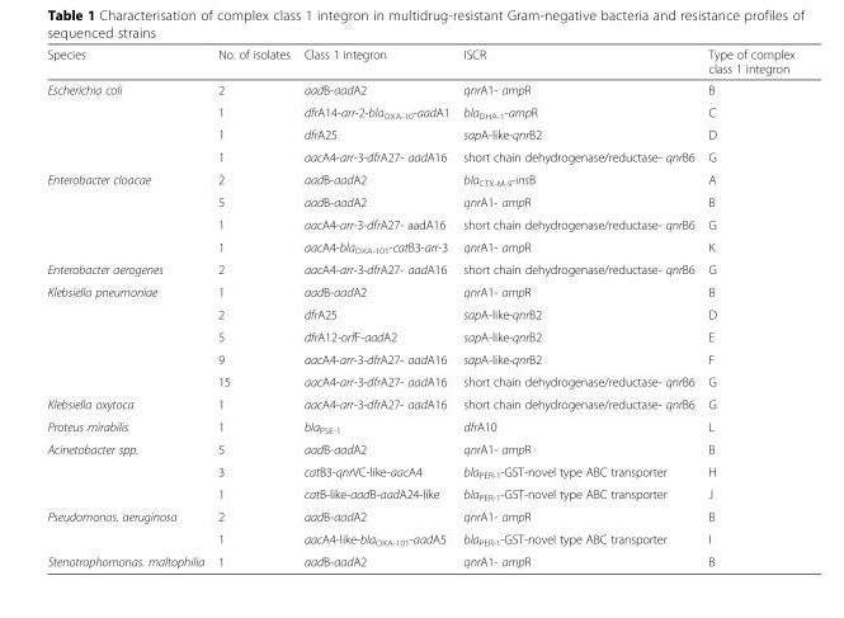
<table><thead><tr><td>Species</td><td>No. of isolates</td><td>Class 1 integron</td><td>ISCR</td><td>Type of complex class 1 integron</td></tr></thead><tbody><tr><td rowspan="4">Escherichia coli</td><td>2</td><td>aadB-aadA2</td><td>qnrA1- ampR</td><td>B</td></tr><tr><td>1</td><td>dfrA14-arr-2-bla<sub>OXA-10</sub>-aadA1</td><td>bla<sub>DHA-1</sub>-ampR</td><td>C</td></tr><tr><td>1</td><td>dfrA25</td><td>sapA-like-qnrB2</td><td>D</td></tr><tr><td>1</td><td>aacA4-arr-3-dfrA27- aadA16</td><td>short chain dehydrogenase/reductase- qnrB6</td><td>G</td></tr><tr><td rowspan="4">Enterobacter cloacae</td><td>2</td><td>aadB-aadA2</td><td>bla<sub>CTX-M-9</sub>-insB</td><td>A</td></tr><tr><td>5</td><td>aadB-aadA2</td><td>qnrA1- ampR</td><td>B</td></tr><tr><td>1</td><td>aacA4-arr-3-dfrA27- aadA16</td><td>short chain dehydrogenase/reductase- qnrB6</td><td>G</td></tr><tr><td>1</td><td>aacA4-bla<sub>OXA-101</sub>-catB3-arr-3</td><td>qnrA1- ampR</td><td>K</td></tr><tr><td>Enterobacter aerogenes</td><td>2</td><td>aacA4-arr-3-dfrA27- aadA16</td><td>short chain dehydrogenase/reductase- qnrB6</td><td>G</td></tr><tr><td rowspan="5">Klebsiella pneumoniae</td><td>1</td><td>aadB-aadA2</td><td>qnrA1- ampR</td><td>B</td></tr><tr><td>2</td><td>dfrA25</td><td>sapA-like-qnrB2</td><td>D</td></tr><tr><td>5</td><td>dfrA12-orfF-aadA2</td><td>sapA-like-qnrB2</td><td>E</td></tr><tr><td>9</td><td>aacA4-arr-3-dfrA27- aadA16</td><td>sapA-like-qnrB2</td><td>F</td></tr><tr><td>15</td><td>aacA4-arr-3-dfrA27- aadA16</td><td>short chain dehydrogenase/reductase- qnrB6</td><td>G</td></tr><tr><td>Klebsiella oxytoca</td><td>1</td><td>aacA4-arr-3-dfrA27- aadA16</td><td>short chain dehydrogenase/reductase- qnrB6</td><td>G</td></tr><tr><td>Proteus mirabilis</td><td>1</td><td>bla<sub>PSE-1</sub></td><td>dfrA10</td><td>L</td></tr><tr><td rowspan="3">Acinetobacter spp.</td><td>5</td><td>aadB-aadA2</td><td>qnrA1- ampR</td><td>B</td></tr><tr><td>3</td><td>catB3-qnrVC-like-aacA4</td><td>bla<sub>PER-1</sub>-GST-novel type ABC transporter</td><td>H</td></tr><tr><td>1</td><td>catB-like-aadB-aadA24-like</td><td>bla<sub>PER-1</sub>-GST-novel type ABC transporter</td><td>J</td></tr><tr><td rowspan="2">Pseudomonas. aeruginosa</td><td>2</td><td>aadB-aadA2</td><td>qnrA1- ampR</td><td>B</td></tr><tr><td>1</td><td>aacA4-like-bla<sub>OXA-101</sub>-aadA5</td><td>bla<sub>PER-1</sub>-GST-novel type ABC transporter</td><td>I</td></tr><tr><td>Stenotrophomonas. maltophilia</td><td>1</td><td>aadB-aadA2</td><td>qnrA1- ampR</td><td>B</td></tr></tbody></table>